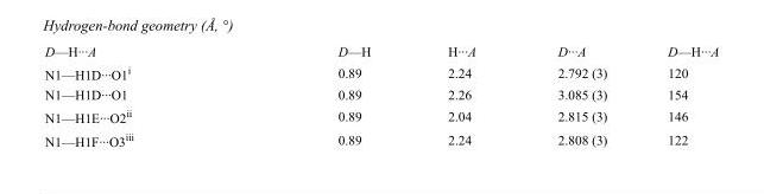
<table><tbody><tr><td>D—H···A</td><td>D—H</td><td>H···A</td><td>D···A</td><td>D—H···A</td></tr><tr><td>N1—H1D···O1<sup>i</sup></td><td>0.89</td><td>2.24</td><td>2.792 (3)</td><td>120</td></tr><tr><td>N1—H1D···O1</td><td>0.89</td><td>2.26</td><td>3.085 (3)</td><td>154</td></tr><tr><td>N1—H1E···O2<sup>ii</sup></td><td>0.89</td><td>2.04</td><td>2.815 (3)</td><td>146</td></tr><tr><td>N1—H1F···O3<sup>iii</sup></td><td>0.89</td><td>2.24</td><td>2.808 (3)</td><td>122</td></tr></tbody></table>